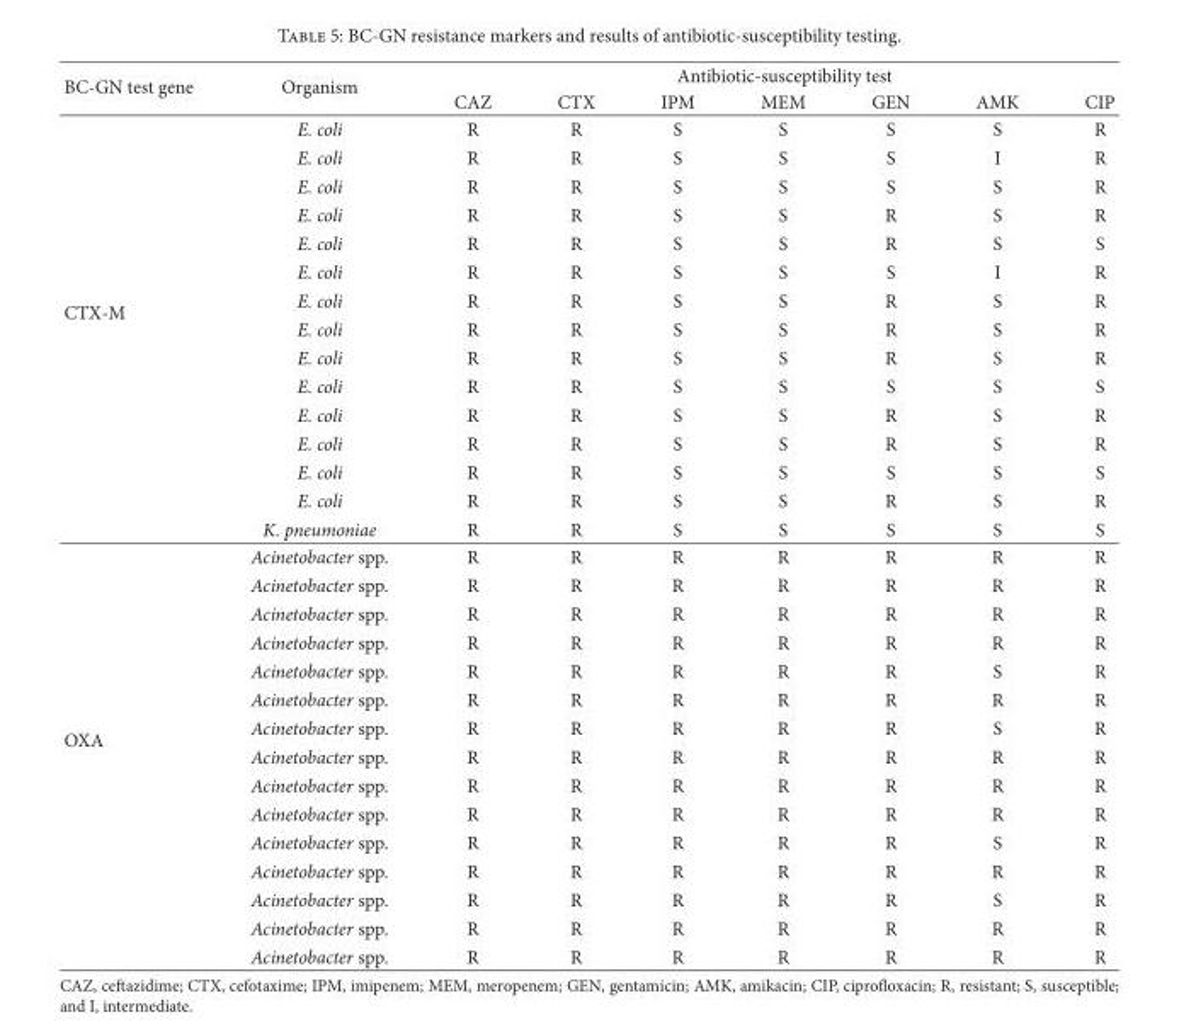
<table><thead><tr><td rowspan="2">BC-GN test gene</td><td rowspan="2">Organism</td><td colspan="7">Antibiotic-susceptibility test</td></tr><tr><td>CAZ</td><td>CTX</td><td>IPM</td><td>MEM</td><td>GEN</td><td>AMK</td><td>CIP</td></tr></thead><tbody><tr><td rowspan="15">CTX-M</td><td>E. coli</td><td>R</td><td>R</td><td>S</td><td>S</td><td>S</td><td>S</td><td>R</td></tr><tr><td>E. coli</td><td>R</td><td>R</td><td>S</td><td>S</td><td>S</td><td>I</td><td>R</td></tr><tr><td>E. coli</td><td>R</td><td>R</td><td>S</td><td>S</td><td>S</td><td>S</td><td>R</td></tr><tr><td>E. coli</td><td>R</td><td>R</td><td>S</td><td>S</td><td>R</td><td>S</td><td>R</td></tr><tr><td>E. coli</td><td>R</td><td>R</td><td>S</td><td>S</td><td>R</td><td>S</td><td>S</td></tr><tr><td>E. coli</td><td>R</td><td>R</td><td>S</td><td>S</td><td>S</td><td>I</td><td>R</td></tr><tr><td>E. coli</td><td>R</td><td>R</td><td>S</td><td>S</td><td>R</td><td>S</td><td>R</td></tr><tr><td>E. coli</td><td>R</td><td>R</td><td>S</td><td>S</td><td>R</td><td>S</td><td>R</td></tr><tr><td>E. coli</td><td>R</td><td>R</td><td>S</td><td>S</td><td>R</td><td>S</td><td>R</td></tr><tr><td>E. coli</td><td>R</td><td>R</td><td>S</td><td>S</td><td>S</td><td>S</td><td>S</td></tr><tr><td>E. coli</td><td>R</td><td>R</td><td>S</td><td>S</td><td>R</td><td>S</td><td>R</td></tr><tr><td>E. coli</td><td>R</td><td>R</td><td>S</td><td>S</td><td>R</td><td>S</td><td>R</td></tr><tr><td>E. coli</td><td>R</td><td>R</td><td>S</td><td>S</td><td>S</td><td>S</td><td>S</td></tr><tr><td>E. coli</td><td>R</td><td>R</td><td>S</td><td>S</td><td>R</td><td>S</td><td>R</td></tr><tr><td>K. pneumoniae</td><td>R</td><td>R</td><td>S</td><td>S</td><td>S</td><td>S</td><td>S</td></tr><tr><td rowspan="15">OXA</td><td>Acinetobacter spp.</td><td>R</td><td>R</td><td>R</td><td>R</td><td>R</td><td>R</td><td>R</td></tr><tr><td>Acinetobacter spp.</td><td>R</td><td>R</td><td>R</td><td>R</td><td>R</td><td>R</td><td>R</td></tr><tr><td>Acinetobacter spp.</td><td>R</td><td>R</td><td>R</td><td>R</td><td>R</td><td>R</td><td>R</td></tr><tr><td>Acinetobacter spp.</td><td>R</td><td>R</td><td>R</td><td>R</td><td>R</td><td>R</td><td>R</td></tr><tr><td>Acinetobacter spp.</td><td>R</td><td>R</td><td>R</td><td>R</td><td>R</td><td>S</td><td>R</td></tr><tr><td>Acinetobacter spp.</td><td>R</td><td>R</td><td>R</td><td>R</td><td>R</td><td>R</td><td>R</td></tr><tr><td>Acinetobacter spp.</td><td>R</td><td>R</td><td>R</td><td>R</td><td>R</td><td>S</td><td>R</td></tr><tr><td>Acinetobacter spp.</td><td>R</td><td>R</td><td>R</td><td>R</td><td>R</td><td>R</td><td>R</td></tr><tr><td>Acinetobacter spp.</td><td>R</td><td>R</td><td>R</td><td>R</td><td>R</td><td>R</td><td>R</td></tr><tr><td>Acinetobacter spp.</td><td>R</td><td>R</td><td>R</td><td>R</td><td>R</td><td>R</td><td>R</td></tr><tr><td>Acinetobacter spp.</td><td>R</td><td>R</td><td>R</td><td>R</td><td>R</td><td>S</td><td>R</td></tr><tr><td>Acinetobacter spp.</td><td>R</td><td>R</td><td>R</td><td>R</td><td>R</td><td>R</td><td>R</td></tr><tr><td>Acinetobacter spp.</td><td>R</td><td>R</td><td>R</td><td>R</td><td>R</td><td>S</td><td>R</td></tr><tr><td>Acinetobacter spp.</td><td>R</td><td>R</td><td>R</td><td>R</td><td>R</td><td>R</td><td>R</td></tr><tr><td>Acinetobacter spp.</td><td>R</td><td>R</td><td>R</td><td>R</td><td>R</td><td>R</td><td>R</td></tr></tbody></table>